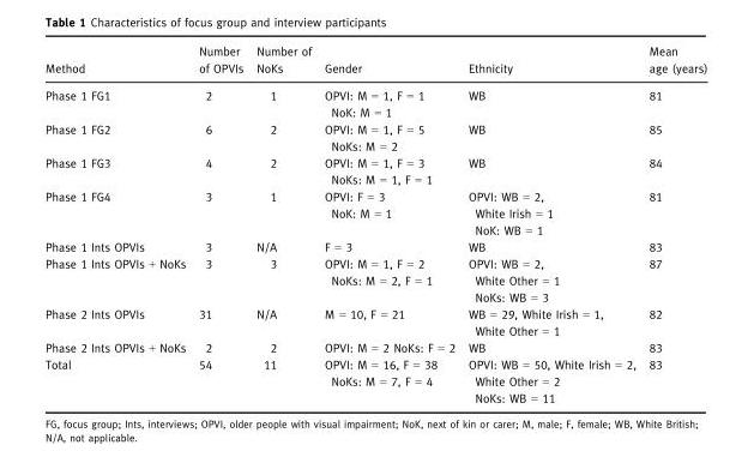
<table><thead><tr><td>Method</td><td>Number of OPVIs</td><td>Number of NoKs</td><td>Gender</td><td>Ethnicity</td><td>Mean age (years)</td></tr></thead><tbody><tr><td>Phase 1 FG1</td><td>2</td><td>1</td><td>OPVI: M = 1, F = 1 NoK: M = 1</td><td>WB</td><td>81</td></tr><tr><td>Phase 1 FG2</td><td>6</td><td>2</td><td>OPVI: M = 1, F = 5 NoKs: M = 2</td><td>WB</td><td>85</td></tr><tr><td>Phase 1 FG3</td><td>4</td><td>2</td><td>OPVI: M = 1, F = 3 NoKs: M = 1, F = 1</td><td>WB</td><td>84</td></tr><tr><td>Phase 1 FG4</td><td>3</td><td>1</td><td>OPVI: F = 3 NoK: M = 1</td><td>OPVI: WB = 2, White Irish = 1 NoK: WB = 1</td><td>81</td></tr><tr><td>Phase 1 Ints OPVIs</td><td>3</td><td>N/A</td><td>F = 3</td><td>WB</td><td>83</td></tr><tr><td>Phase 1 Ints OPVIs + NoKs</td><td>3</td><td>3</td><td>OPVI: M = 1, F = 2 NoKs: M = 2, F = 1</td><td>OPVI: WB = 2, White Other = 1 NoKs: WB = 3</td><td>87</td></tr><tr><td>Phase 2 Ints OPVIs</td><td>31</td><td>N/A</td><td>M = 10, F = 21</td><td>WB = 29, White Irish = 1, White Other = 1</td><td>82</td></tr><tr><td>Phase 2 Ints OPVIs + NoKs</td><td>2</td><td>2</td><td>OPVI: M = 2 NoKs: F = 2</td><td>WB</td><td>83</td></tr><tr><td>Total</td><td>54</td><td>11</td><td>OPVI: M = 16, F = 38 NoKs: M = 7, F = 4</td><td>OPVI: WB = 50, White Irish = 2, White Other = 2 NoKs: WB = 11</td><td>83</td></tr></tbody></table>